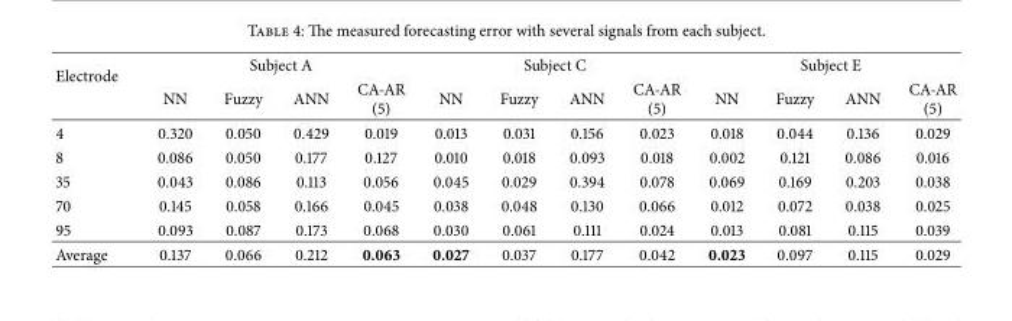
<table><thead><tr><td rowspan="2">Electrode</td><td colspan="4">Subject A</td><td colspan="4">Subject C</td><td colspan="4">Subject E</td></tr><tr><td>NN</td><td>Fuzzy</td><td>ANN</td><td>CA-AR (5)</td><td>NN</td><td>Fuzzy</td><td>ANN</td><td>CA-AR (5)</td><td>NN</td><td>Fuzzy</td><td>ANN</td><td>CA-AR (5)</td></tr></thead><tbody><tr><td>4</td><td>0.320</td><td>0.050</td><td>0.429</td><td>0.019</td><td>0.013</td><td>0.031</td><td>0.156</td><td>0.023</td><td>0.018</td><td>0.044</td><td>0.136</td><td>0.029</td></tr><tr><td>8</td><td>0.086</td><td>0.050</td><td>0.177</td><td>0.127</td><td>0.010</td><td>0.018</td><td>0.093</td><td>0.018</td><td>0.002</td><td>0.121</td><td>0.086</td><td>0.016</td></tr><tr><td>35</td><td>0.043</td><td>0.086</td><td>0.113</td><td>0.056</td><td>0.045</td><td>0.029</td><td>0.394</td><td>0.078</td><td>0.069</td><td>0.169</td><td>0.203</td><td>0.038</td></tr><tr><td>70</td><td>0.145</td><td>0.058</td><td>0.166</td><td>0.045</td><td>0.038</td><td>0.048</td><td>0.130</td><td>0.066</td><td>0.012</td><td>0.072</td><td>0.038</td><td>0.025</td></tr><tr><td>95</td><td>0.093</td><td>0.087</td><td>0.173</td><td>0.068</td><td>0.030</td><td>0.061</td><td>0.111</td><td>0.024</td><td>0.013</td><td>0.081</td><td>0.115</td><td>0.039</td></tr><tr><td>Average</td><td>0.137</td><td>0.066</td><td>0.212</td><td>0.063</td><td>0.027</td><td>0.037</td><td>0.177</td><td>0.042</td><td>0.023</td><td>0.097</td><td>0.115</td><td>0.029</td></tr></tbody></table>